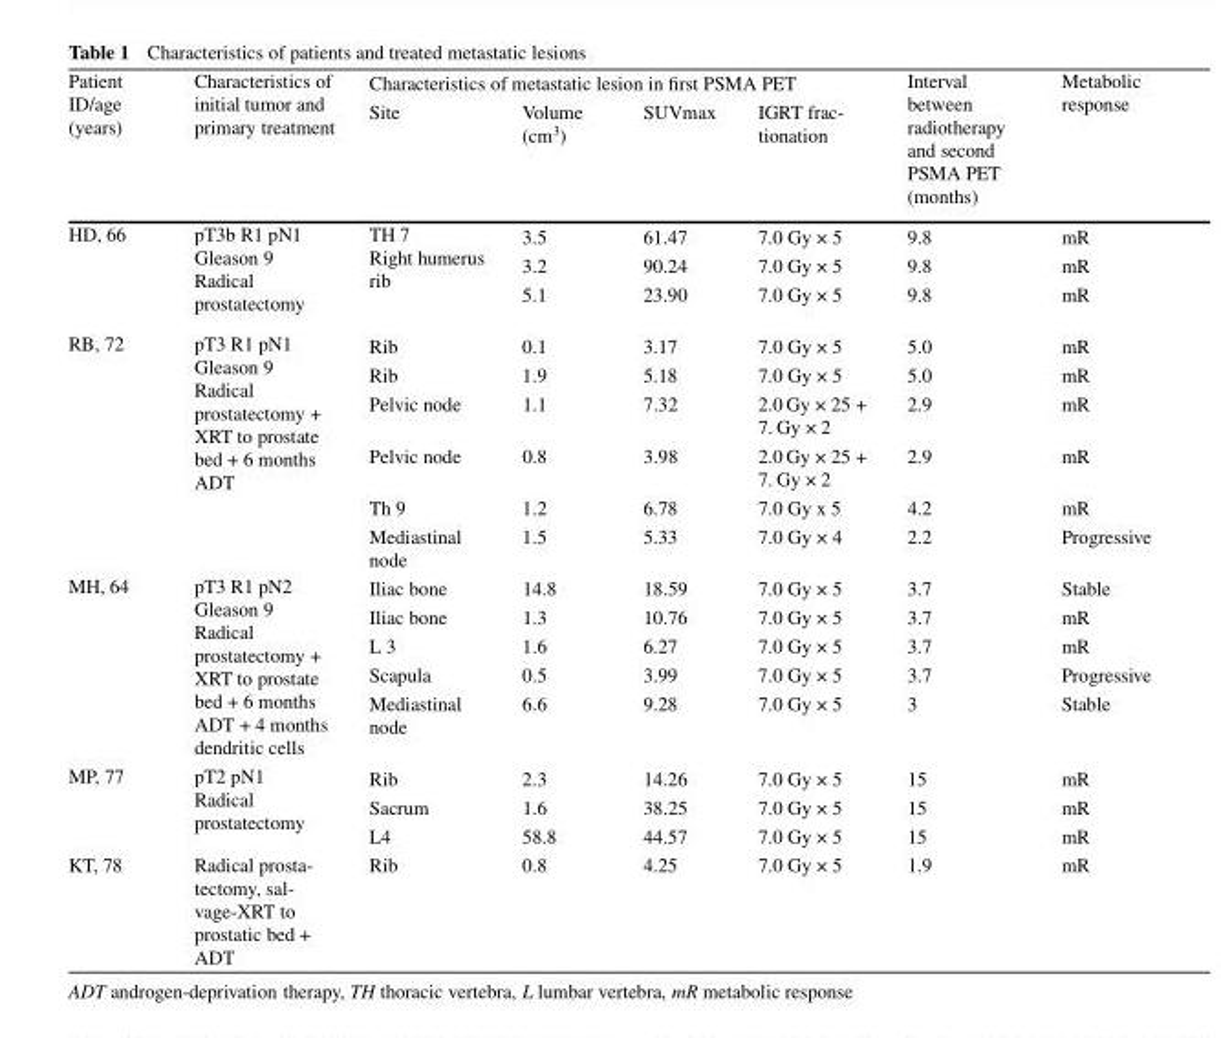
<table><thead><tr><td rowspan="2">Patient ID/age (years)</td><td rowspan="2">Characteristics of initial tumor and primary treatment</td><td colspan="4">Characteristics of metastatic lesion in first PSMA PET</td><td rowspan="2">Interval between radiotherapy and second PSMA PET (months)</td><td rowspan="2">Metabolic response</td></tr><tr><td>Site</td><td>Volume (cm<sup>3</sup>)</td><td>SUVmax</td><td>IGRT frac- tionation</td></tr></thead><tbody><tr><td rowspan="3">HD, 66</td><td rowspan="3">pT3b R1 pN1 Gleason 9 Radical prostatectomy</td><td rowspan="3">TH 7 Right humerus rib</td><td>3.5</td><td>61.47</td><td>7.0 Gy × 5</td><td>9.8</td><td>mR</td></tr><tr><td>3.2</td><td>90.24</td><td>7.0 Gy × 5</td><td>9.8</td><td>mR</td></tr><tr><td>5.1</td><td>23.90</td><td>7.0 Gy × 5</td><td>9.8</td><td>mR</td></tr><tr><td rowspan="6">RB, 72</td><td rowspan="6">pT3 R1 pN1 Gleason 9 Radical prostatectomy + XRT to prostate bed + 6 months ADT</td><td>Rib</td><td>0.1</td><td>3.17</td><td>7.0 Gy × 5</td><td>5.0</td><td>mR</td></tr><tr><td>Rib</td><td>1.9</td><td>5.18</td><td>7.0 Gy × 5</td><td>5.0</td><td>mR</td></tr><tr><td>Pelvic node</td><td>1.1</td><td>7.32</td><td>2.0 Gy × 25 + 7. Gy × 2</td><td>2.9</td><td>mR</td></tr><tr><td>Pelvic node</td><td>0.8</td><td>3.98</td><td>2.0 Gy × 25 + 7. Gy × 2</td><td>2.9</td><td>mR</td></tr><tr><td>Th 9</td><td>1.2</td><td>6.78</td><td>7.0 Gy x 5</td><td>4.2</td><td>mR</td></tr><tr><td>Mediastinal node</td><td>1.5</td><td>5.33</td><td>7.0 Gy × 4</td><td>2.2</td><td>Progressive</td></tr><tr><td rowspan="5">MH, 64</td><td rowspan="5">pT3 R1 pN2 Gleason 9 Radical prostatectomy + XRT to prostate bed + 6 months ADT + 4 months dendritic cells</td><td>Iliac bone</td><td>14.8</td><td>18.59</td><td>7.0 Gy × 5</td><td>3.7</td><td>Stable</td></tr><tr><td>Iliac bone</td><td>1.3</td><td>10.76</td><td>7.0 Gy × 5</td><td>3.7</td><td>mR</td></tr><tr><td>L 3</td><td>1.6</td><td>6.27</td><td>7.0 Gy × 5</td><td>3.7</td><td>mR</td></tr><tr><td>Scapula</td><td>0.5</td><td>3.99</td><td>7.0 Gy × 5</td><td>3.7</td><td>Progressive</td></tr><tr><td>Mediastinal node</td><td>6.6</td><td>9.28</td><td>7.0 Gy × 5</td><td>3</td><td>Stable</td></tr><tr><td rowspan="3">MP, 77</td><td rowspan="3">pT2 pN1 Radical prostatectomy</td><td>Rib</td><td>2.3</td><td>14.26</td><td>7.0 Gy × 5</td><td>15</td><td>mR</td></tr><tr><td>Sacrum</td><td>1.6</td><td>38.25</td><td>7.0 Gy × 5</td><td>15</td><td>mR</td></tr><tr><td>L4</td><td>58.8</td><td>44.57</td><td>7.0 Gy × 5</td><td>15</td><td>mR</td></tr><tr><td>KT, 78</td><td>Radical prosta- tectomy, sal- vage-XRT to prostatic bed + ADT</td><td>Rib</td><td>0.8</td><td>4.25</td><td>7.0 Gy × 5</td><td>1.9</td><td>mR</td></tr></tbody></table>